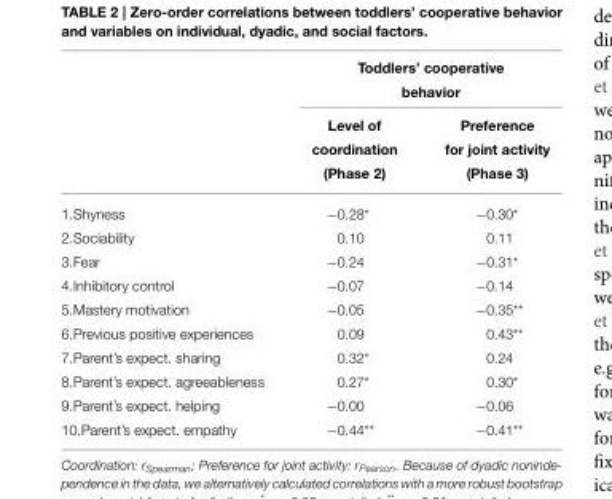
<table><thead><tr><td rowspan="2"></td><td colspan="2">Toddlers’ cooperative behavior</td></tr><tr><td>Level of coordination (Phase 2)</td><td>Preference for joint activity (Phase 3)</td></tr></thead><tbody><tr><td>1.Shyness</td><td>−0.28*</td><td>−0.30*</td></tr><tr><td>2.Sociability</td><td>0.10</td><td>0.11</td></tr><tr><td>3.Fear</td><td>−0.24</td><td>−0.31*</td></tr><tr><td>4.Inhibitory control</td><td>−0.07</td><td>−0.14</td></tr><tr><td>5.Mastery motivation</td><td>−0.05</td><td>−0.35**</td></tr><tr><td>6.Previous positive experiences</td><td>0.09</td><td>0.43**</td></tr><tr><td>7.Parent’s expect. sharing</td><td>0.32*</td><td>0.24</td></tr><tr><td>8.Parent’s expect. agreeableness</td><td>0.27*</td><td>0.30*</td></tr><tr><td>9.Parent’s expect. helping</td><td>−0.00</td><td>−0.06</td></tr><tr><td>10.Parent’s expect. empathy</td><td>−0.44**</td><td>−0.41**</td></tr></tbody></table>